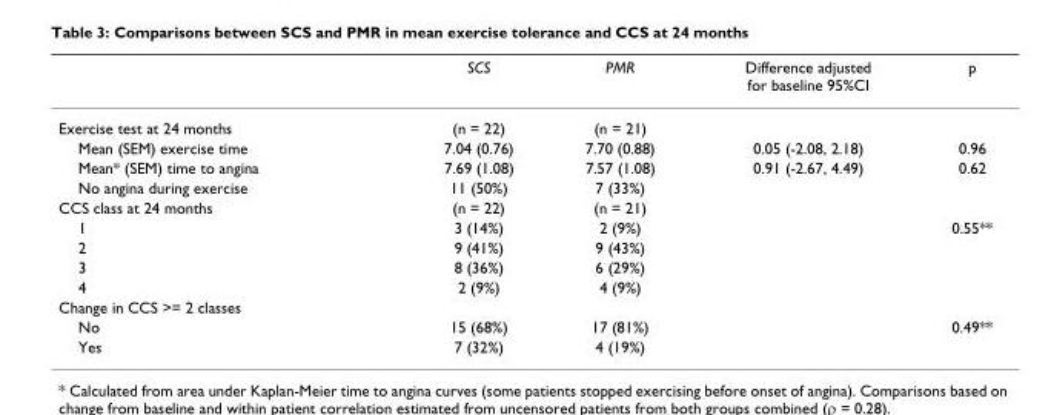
<table><thead><tr><td></td><td>SCS</td><td>PMR</td><td>Difference adjusted for baseline 95%CI</td><td>p</td></tr></thead><tbody><tr><td>Exercise test at 24 months</td><td>(n = 22)</td><td>(n = 21)</td><td></td><td></td></tr><tr><td>Mean (SEM) exercise time</td><td>7.04 (0.76)</td><td>7.70 (0.88)</td><td>0.05 (-2.08, 2.18)</td><td>0.96</td></tr><tr><td>Mean* (SEM) time to angina</td><td>7.69 (1.08)</td><td>7.57 (1.08)</td><td>0.91 (-2.67, 4.49)</td><td>0.62</td></tr><tr><td>No angina during exercise</td><td>11 (50%)</td><td>7 (33%)</td><td></td><td></td></tr><tr><td>CCS class at 24 months</td><td>(n = 22)</td><td>(n = 21)</td><td></td><td></td></tr><tr><td>1</td><td>3 (14%)</td><td>2 (9%)</td><td></td><td>0.55**</td></tr><tr><td>2</td><td>9 (41%)</td><td>9 (43%)</td><td></td><td></td></tr><tr><td>3</td><td>8 (36%)</td><td>6 (29%)</td><td></td><td></td></tr><tr><td>4</td><td>2 (9%)</td><td>4 (9%)</td><td></td><td></td></tr><tr><td colspan="5">Change in CCS &gt;= 2 classes</td></tr><tr><td>No</td><td>15 (68%)</td><td>17 (81%)</td><td></td><td>0.49**</td></tr><tr><td>Yes</td><td>7 (32%)</td><td>4 (19%)</td><td></td><td></td></tr></tbody></table>